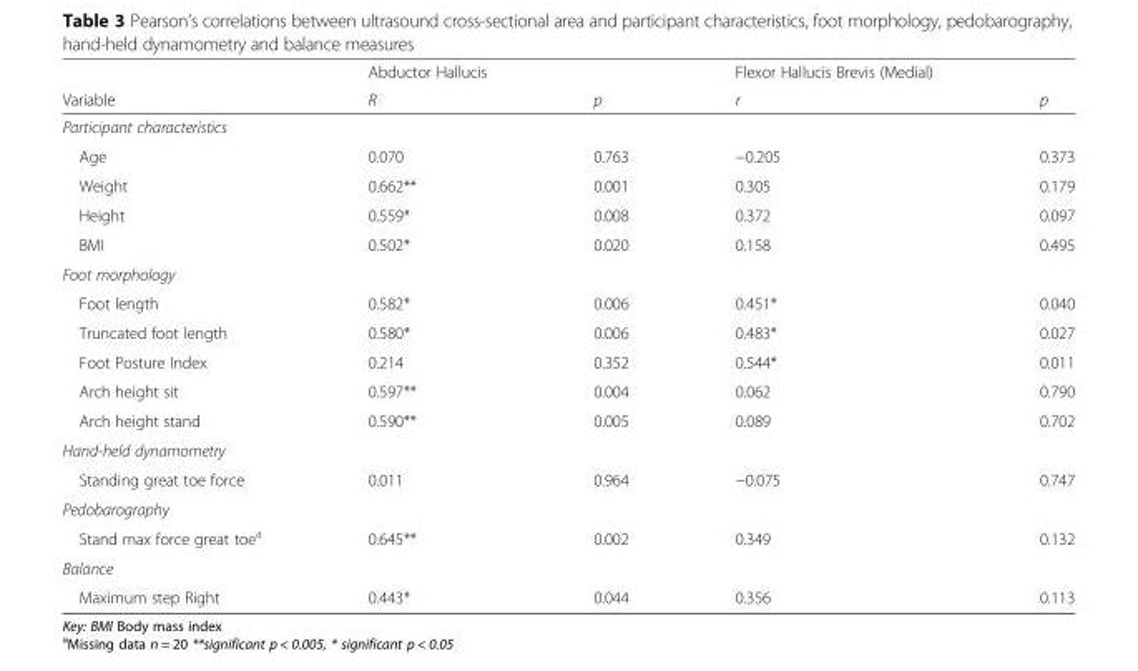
<table><thead><tr><td rowspan="2">Variable</td><td rowspan="2">Abductor Hallucis R</td><td rowspan="2">p</td><td rowspan="2">Flexor Hallucis Brevis (Medial) r</td><td rowspan="2">p</td></tr><tr></tr></thead><tbody><tr><td colspan="5">Participant characteristics</td></tr><tr><td>Age</td><td>0.070</td><td>0.763</td><td>−0.205</td><td>0.373</td></tr><tr><td>Weight</td><td>0.662**</td><td>0.001</td><td>0.305</td><td>0.179</td></tr><tr><td>Height</td><td>0.559*</td><td>0.008</td><td>0.372</td><td>0.097</td></tr><tr><td>BMI</td><td>0.502*</td><td>0.020</td><td>0.158</td><td>0.495</td></tr><tr><td colspan="5">Foot morphology</td></tr><tr><td>Foot length</td><td>0.582*</td><td>0.006</td><td>0.451*</td><td>0.040</td></tr><tr><td>Truncated foot length</td><td>0.580*</td><td>0.006</td><td>0.483*</td><td>0.027</td></tr><tr><td>Foot Posture Index</td><td>0.214</td><td>0.352</td><td>0.544*</td><td>0.011</td></tr><tr><td>Arch height sit</td><td>0.597**</td><td>0.004</td><td>0.062</td><td>0.790</td></tr><tr><td>Arch height stand</td><td>0.590**</td><td>0.005</td><td>0.089</td><td>0.702</td></tr><tr><td colspan="5">Hand-held dynamometry</td></tr><tr><td>Standing great toe force</td><td>0.011</td><td>0.964</td><td>−0.075</td><td>0.747</td></tr><tr><td colspan="5">Pedobarography</td></tr><tr><td>Stand max force great toe<sup>a</sup></td><td>0.645**</td><td>0.002</td><td>0.349</td><td>0.132</td></tr><tr><td colspan="5">Balance</td></tr><tr><td>Maximum step Right</td><td>0.443*</td><td>0.044</td><td>0.356</td><td>0.113</td></tr></tbody></table>